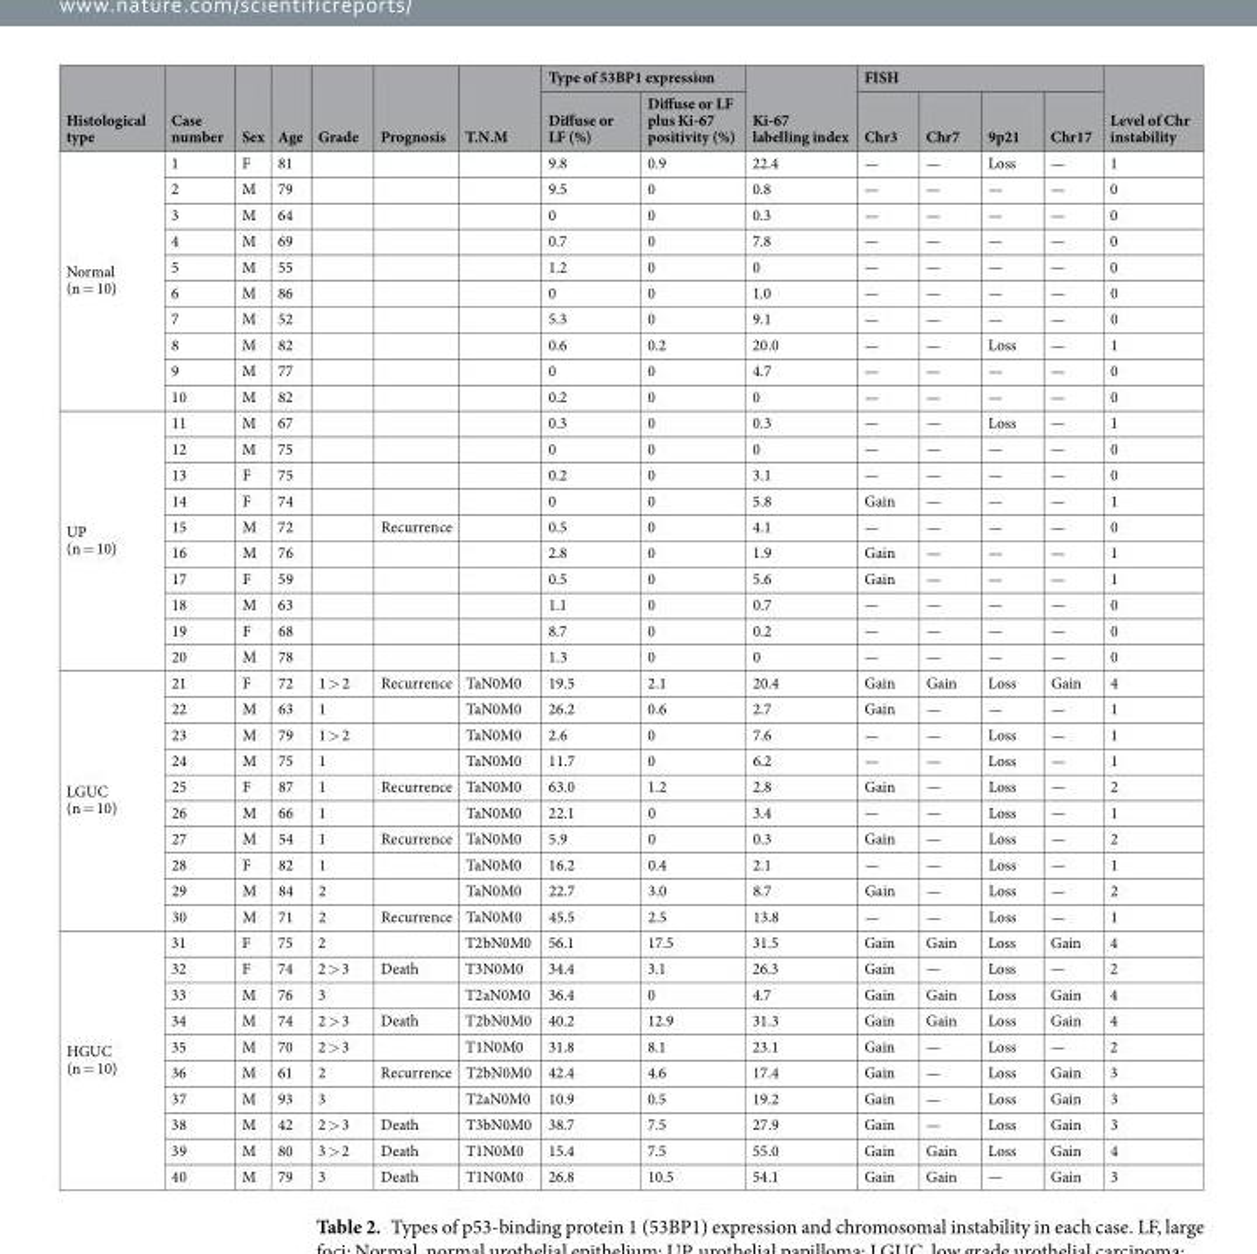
<table><thead><tr><td rowspan="2">Histological type</td><td rowspan="2">Case number</td><td rowspan="2">Sex</td><td rowspan="2">Age</td><td rowspan="2">Grade</td><td rowspan="2">Prognosis</td><td rowspan="2">T.N.M</td><td colspan="2">Type of 53BP1 expression</td><td rowspan="2">Ki-67 labelling index</td><td colspan="4">FISH</td><td rowspan="2">Level of Chr instability</td></tr><tr><td>Diffuse or LF (%)</td><td>Diffuse or LF plus Ki-67 positivity (%)</td><td>Chr3</td><td>Chr7</td><td>9p21</td><td>Chr17</td></tr></thead><tbody><tr><td rowspan="10">Normal (n = 10)</td><td>1</td><td>F</td><td>81</td><td></td><td></td><td></td><td>9.8</td><td>0.9</td><td>22.4</td><td>—</td><td>—</td><td>Loss</td><td>—</td><td>1</td></tr><tr><td>2</td><td>M</td><td>79</td><td></td><td></td><td></td><td>9.5</td><td>0</td><td>0.8</td><td>—</td><td>—</td><td>—</td><td>—</td><td>0</td></tr><tr><td>3</td><td>M</td><td>64</td><td></td><td></td><td></td><td>0</td><td>0</td><td>0.3</td><td>—</td><td>—</td><td>—</td><td>—</td><td>0</td></tr><tr><td>4</td><td>M</td><td>69</td><td></td><td></td><td></td><td>0.7</td><td>0</td><td>7.8</td><td>—</td><td>—</td><td>—</td><td>—</td><td>0</td></tr><tr><td>5</td><td>M</td><td>55</td><td></td><td></td><td></td><td>1.2</td><td>0</td><td>0</td><td>—</td><td>—</td><td>—</td><td>—</td><td>0</td></tr><tr><td>6</td><td>M</td><td>86</td><td></td><td></td><td></td><td>0</td><td>0</td><td>1.0</td><td>—</td><td>—</td><td>—</td><td>—</td><td>0</td></tr><tr><td>7</td><td>M</td><td>52</td><td></td><td></td><td></td><td>5.3</td><td>0</td><td>9.1</td><td>—</td><td>—</td><td>—</td><td>—</td><td>0</td></tr><tr><td>8</td><td>M</td><td>82</td><td></td><td></td><td></td><td>0.6</td><td>0.2</td><td>20.0</td><td>—</td><td>—</td><td>Loss</td><td>—</td><td>1</td></tr><tr><td>9</td><td>M</td><td>77</td><td></td><td></td><td></td><td>0</td><td>0</td><td>4.7</td><td>—</td><td>—</td><td>—</td><td>—</td><td>0</td></tr><tr><td>10</td><td>M</td><td>82</td><td></td><td></td><td></td><td>0.2</td><td>0</td><td>0</td><td>—</td><td>—</td><td>—</td><td>—</td><td>0</td></tr><tr><td rowspan="10">UP (n = 10)</td><td>11</td><td>M</td><td>67</td><td></td><td></td><td></td><td>0.3</td><td>0</td><td>0.3</td><td>—</td><td>—</td><td>Loss</td><td>—</td><td>1</td></tr><tr><td>12</td><td>M</td><td>75</td><td></td><td></td><td></td><td>0</td><td>0</td><td>0</td><td>—</td><td>—</td><td>—</td><td>—</td><td>0</td></tr><tr><td>13</td><td>F</td><td>75</td><td></td><td></td><td></td><td>0.2</td><td>0</td><td>3.1</td><td>—</td><td>—</td><td>—</td><td>—</td><td>0</td></tr><tr><td>14</td><td>F</td><td>74</td><td></td><td></td><td></td><td>0</td><td>0</td><td>5.8</td><td>Gain</td><td>—</td><td>—</td><td>—</td><td>1</td></tr><tr><td>15</td><td>M</td><td>72</td><td></td><td>Recurrence</td><td></td><td>0.5</td><td>0</td><td>4.1</td><td>—</td><td>—</td><td>—</td><td>—</td><td>0</td></tr><tr><td>16</td><td>M</td><td>76</td><td></td><td></td><td></td><td>2.8</td><td>0</td><td>1.9</td><td>Gain</td><td>—</td><td>—</td><td>—</td><td>1</td></tr><tr><td>17</td><td>F</td><td>59</td><td></td><td></td><td></td><td>0.5</td><td>0</td><td>5.6</td><td>Gain</td><td>—</td><td>—</td><td>—</td><td>1</td></tr><tr><td>18</td><td>M</td><td>63</td><td></td><td></td><td></td><td>1.1</td><td>0</td><td>0.7</td><td>—</td><td>—</td><td>—</td><td>—</td><td>0</td></tr><tr><td>19</td><td>F</td><td>68</td><td></td><td></td><td></td><td>8.7</td><td>0</td><td>0.2</td><td>—</td><td>—</td><td>—</td><td>—</td><td>0</td></tr><tr><td>20</td><td>M</td><td>78</td><td></td><td></td><td></td><td>1.3</td><td>0</td><td>0</td><td>—</td><td>—</td><td>—</td><td>—</td><td>0</td></tr><tr><td rowspan="10">LGUC (n = 10)</td><td>21</td><td>F</td><td>72</td><td>1 &gt; 2</td><td>Recurrence</td><td>TaN0M0</td><td>19.5</td><td>2.1</td><td>20.4</td><td>Gain</td><td>Gain</td><td>Loss</td><td>Gain</td><td>4</td></tr><tr><td>22</td><td>M</td><td>63</td><td>1</td><td></td><td>TaN0M0</td><td>26.2</td><td>0.6</td><td>2.7</td><td>Gain</td><td>—</td><td>—</td><td>—</td><td>1</td></tr><tr><td>23</td><td>M</td><td>79</td><td>1 &gt; 2</td><td></td><td>TaN0M0</td><td>2.6</td><td>0</td><td>7.6</td><td>—</td><td>—</td><td>Loss</td><td>—</td><td>1</td></tr><tr><td>24</td><td>M</td><td>75</td><td>1</td><td></td><td>TaN0M0</td><td>11.7</td><td>0</td><td>6.2</td><td>—</td><td>—</td><td>Loss</td><td>—</td><td>1</td></tr><tr><td>25</td><td>F</td><td>87</td><td>1</td><td>Recurrence</td><td>TaN0M0</td><td>63.0</td><td>1.2</td><td>2.8</td><td>Gain</td><td>—</td><td>Loss</td><td>—</td><td>2</td></tr><tr><td>26</td><td>M</td><td>66</td><td>1</td><td></td><td>TaN0M0</td><td>22.1</td><td>0</td><td>3.4</td><td>—</td><td>—</td><td>Loss</td><td>—</td><td>1</td></tr><tr><td>27</td><td>M</td><td>54</td><td>1</td><td>Recurrence</td><td>TaN0M0</td><td>5.9</td><td>0</td><td>0.3</td><td>Gain</td><td>—</td><td>Loss</td><td>—</td><td>2</td></tr><tr><td>28</td><td>F</td><td>82</td><td>1</td><td></td><td>TaN0M0</td><td>16.2</td><td>0.4</td><td>2.1</td><td>—</td><td>—</td><td>Loss</td><td>—</td><td>1</td></tr><tr><td>29</td><td>M</td><td>84</td><td>2</td><td></td><td>TaN0M0</td><td>22.7</td><td>3.0</td><td>8.7</td><td>Gain</td><td>—</td><td>Loss</td><td>—</td><td>2</td></tr><tr><td>30</td><td>M</td><td>71</td><td>2</td><td>Recurrence</td><td>TaN0M0</td><td>45.5</td><td>2.5</td><td>13.8</td><td>—</td><td>—</td><td>Loss</td><td>—</td><td>1</td></tr><tr><td rowspan="10">HGUC (n = 10)</td><td>31</td><td>F</td><td>75</td><td>2</td><td></td><td>T2bN0M0</td><td>56.1</td><td>17.5</td><td>31.5</td><td>Gain</td><td>Gain</td><td>Loss</td><td>Gain</td><td>4</td></tr><tr><td>32</td><td>F</td><td>74</td><td>2 &gt; 3</td><td>Death</td><td>T3N0M0</td><td>34.4</td><td>3.1</td><td>26.3</td><td>Gain</td><td>—</td><td>Loss</td><td>—</td><td>2</td></tr><tr><td>33</td><td>M</td><td>76</td><td>3</td><td></td><td>T2aN0M0</td><td>36.4</td><td>0</td><td>4.7</td><td>Gain</td><td>Gain</td><td>Loss</td><td>Gain</td><td>4</td></tr><tr><td>34</td><td>M</td><td>74</td><td>2 &gt; 3</td><td>Death</td><td>T2bN0M0</td><td>40.2</td><td>12.9</td><td>31.3</td><td>Gain</td><td>Gain</td><td>Loss</td><td>Gain</td><td>4</td></tr><tr><td>35</td><td>M</td><td>70</td><td>2 &gt; 3</td><td></td><td>T1N0M0</td><td>31.8</td><td>8.1</td><td>23.1</td><td>Gain</td><td>—</td><td>Loss</td><td>—</td><td>2</td></tr><tr><td>36</td><td>M</td><td>61</td><td>2</td><td>Recurrence</td><td>T2bN0M0</td><td>42.4</td><td>4.6</td><td>17.4</td><td>Gain</td><td>—</td><td>Loss</td><td>Gain</td><td>3</td></tr><tr><td>37</td><td>M</td><td>93</td><td>3</td><td></td><td>T2aN0M0</td><td>10.9</td><td>0.5</td><td>19.2</td><td>Gain</td><td>—</td><td>Loss</td><td>Gain</td><td>3</td></tr><tr><td>38</td><td>M</td><td>42</td><td>2 &gt; 3</td><td>Death</td><td>T3bN0M0</td><td>38.7</td><td>7.5</td><td>27.9</td><td>Gain</td><td>—</td><td>Loss</td><td>Gain</td><td>3</td></tr><tr><td>39</td><td>M</td><td>80</td><td>3 &gt; 2</td><td>Death</td><td>T1N0M0</td><td>15.4</td><td>7.5</td><td>55.0</td><td>Gain</td><td>Gain</td><td>Loss</td><td>Gain</td><td>4</td></tr><tr><td>40</td><td>M</td><td>79</td><td>3</td><td>Death</td><td>T1N0M0</td><td>26.8</td><td>10.5</td><td>54.1</td><td>Gain</td><td>Gain</td><td>—</td><td>Gain</td><td>3</td></tr></tbody></table>